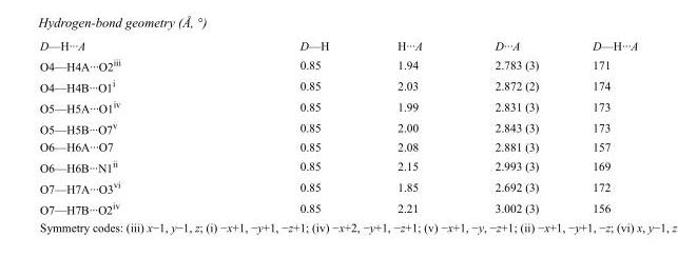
<table><tbody><tr><td>D—H···A</td><td>D—H</td><td>H···A</td><td>D···A</td><td>D—H···A</td></tr><tr><td>O4—H4A···O2<sup>iii</sup></td><td>0.85</td><td>1.94</td><td>2.783 (3)</td><td>171</td></tr><tr><td>O4—H4B···O1<sup>i</sup></td><td>0.85</td><td>2.03</td><td>2.872 (2)</td><td>174</td></tr><tr><td>O5—H5A···O1<sup>iv</sup></td><td>0.85</td><td>1.99</td><td>2.831 (3)</td><td>173</td></tr><tr><td>O5—H5B···O7<sup>v</sup></td><td>0.85</td><td>2.00</td><td>2.843 (3)</td><td>173</td></tr><tr><td>O6—H6A···O7</td><td>0.85</td><td>2.08</td><td>2.881 (3)</td><td>157</td></tr><tr><td>O6—H6B···N1<sup>ii</sup></td><td>0.85</td><td>2.15</td><td>2.993 (3)</td><td>169</td></tr><tr><td>O7—H7A···O3<sup>vi</sup></td><td>0.85</td><td>1.85</td><td>2.692 (3)</td><td>172</td></tr><tr><td>O7—H7B···O2<sup>iv</sup></td><td>0.85</td><td>2.21</td><td>3.002 (3)</td><td>156</td></tr></tbody></table>